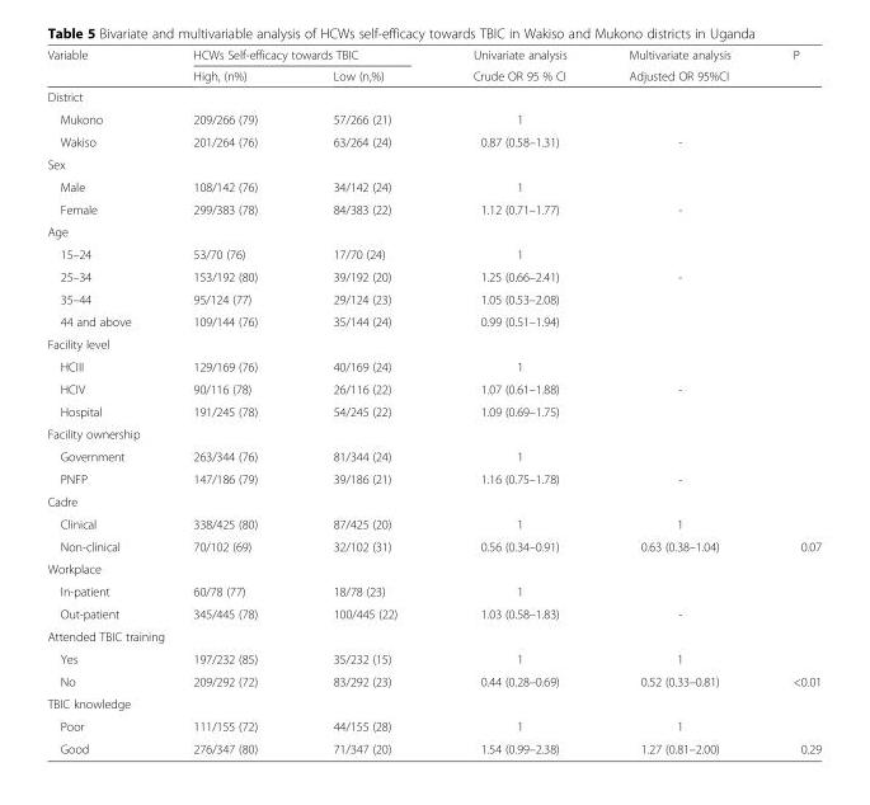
<table><thead><tr><td rowspan="2">Variable</td><td colspan="2">HCWs Self-efficacy towards TBIC</td><td rowspan="2">Univariate analysis Crude OR 95 % CI</td><td rowspan="2">Multivariate analysis Adjusted OR 95%CI</td><td rowspan="2">P</td></tr><tr><td>High, (n%)</td><td>Low (n,%)</td></tr></thead><tbody><tr><td colspan="6">District</td></tr><tr><td>Mukono</td><td>209/266 (79)</td><td>57/266 (21)</td><td>1</td><td></td><td></td></tr><tr><td>Wakiso</td><td>201/264 (76)</td><td>63/264 (24)</td><td>0.87 (0.58–1.31)</td><td>-</td><td></td></tr><tr><td colspan="6">Sex</td></tr><tr><td>Male</td><td>108/142 (76)</td><td>34/142 (24)</td><td>1</td><td></td><td></td></tr><tr><td>Female</td><td>299/383 (78)</td><td>84/383 (22)</td><td>1.12 (0.71–1.77)</td><td>-</td><td></td></tr><tr><td colspan="6">Age</td></tr><tr><td>15–24</td><td>53/70 (76)</td><td>17/70 (24)</td><td>1</td><td></td><td></td></tr><tr><td>25–34</td><td>153/192 (80)</td><td>39/192 (20)</td><td>1.25 (0.66–2.41)</td><td>-</td><td></td></tr><tr><td>35–44</td><td>95/124 (77)</td><td>29/124 (23)</td><td>1.05 (0.53–2.08)</td><td></td><td></td></tr><tr><td>44 and above</td><td>109/144 (76)</td><td>35/144 (24)</td><td>0.99 (0.51–1.94)</td><td></td><td></td></tr><tr><td colspan="6">Facility level</td></tr><tr><td>HCIII</td><td>129/169 (76)</td><td>40/169 (24)</td><td>1</td><td></td><td></td></tr><tr><td>HCIV</td><td>90/116 (78)</td><td>26/116 (22)</td><td>1.07 (0.61–1.88)</td><td>-</td><td></td></tr><tr><td>Hospital</td><td>191/245 (78)</td><td>54/245 (22)</td><td>1.09 (0.69–1.75)</td><td></td><td></td></tr><tr><td colspan="6">Facility ownership</td></tr><tr><td>Government</td><td>263/344 (76)</td><td>81/344 (24)</td><td>1</td><td></td><td></td></tr><tr><td>PNFP</td><td>147/186 (79)</td><td>39/186 (21)</td><td>1.16 (0.75–1.78)</td><td>-</td><td></td></tr><tr><td colspan="6">Cadre</td></tr><tr><td>Clinical</td><td>338/425 (80)</td><td>87/425 (20)</td><td>1</td><td>1</td><td></td></tr><tr><td>Non-clinical</td><td>70/102 (69)</td><td>32/102 (31)</td><td>0.56 (0.34–0.91)</td><td>0.63 (0.38–1.04)</td><td>0.07</td></tr><tr><td colspan="6">Workplace</td></tr><tr><td>In-patient</td><td>60/78 (77)</td><td>18/78 (23)</td><td>1</td><td></td><td></td></tr><tr><td>Out-patient</td><td>345/445 (78)</td><td>100/445 (22)</td><td>1.03 (0.58–1.83)</td><td>-</td><td></td></tr><tr><td colspan="6">Attended TBIC training</td></tr><tr><td>Yes</td><td>197/232 (85)</td><td>35/232 (15)</td><td>1</td><td>1</td><td></td></tr><tr><td>No</td><td>209/292 (72)</td><td>83/292 (23)</td><td>0.44 (0.28–0.69)</td><td>0.52 (0.33–0.81)</td><td>&lt;0.01</td></tr><tr><td colspan="6">TBIC knowledge</td></tr><tr><td>Poor</td><td>111/155 (72)</td><td>44/155 (28)</td><td>1</td><td>1</td><td></td></tr><tr><td>Good</td><td>276/347 (80)</td><td>71/347 (20)</td><td>1.54 (0.99–2.38)</td><td>1.27 (0.81–2.00)</td><td>0.29</td></tr></tbody></table>